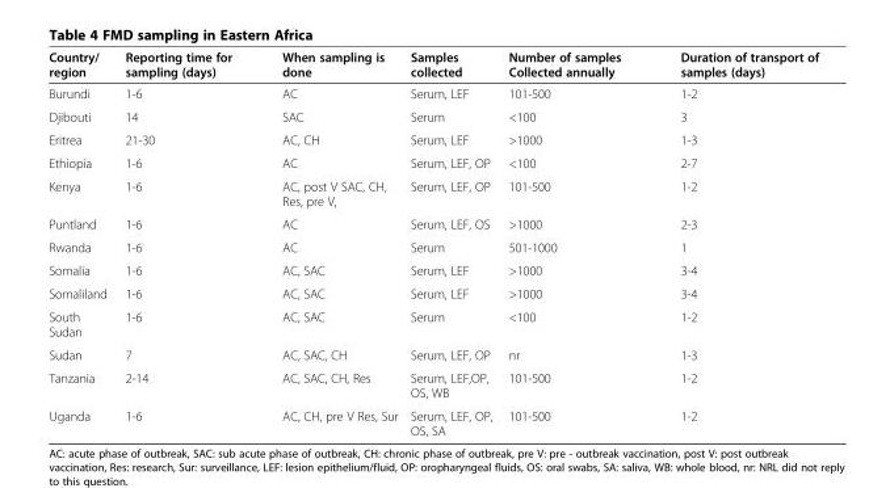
<table><thead><tr><td>Country/ region</td><td>Reporting time for sampling (days)</td><td>When sampling is done</td><td>Samples collected</td><td>Number of samples Collected annually</td><td>Duration of transport of samples (days)</td></tr></thead><tbody><tr><td>Burundi</td><td>1-6</td><td>AC</td><td>Serum, LEF</td><td>101-500</td><td>1-2</td></tr><tr><td>Djibouti</td><td>14</td><td>SAC</td><td>Serum</td><td>&lt;100</td><td>3</td></tr><tr><td>Eritrea</td><td>21-30</td><td>AC, CH</td><td>Serum, LEF</td><td>&gt;1000</td><td>1-3</td></tr><tr><td>Ethiopia</td><td>1-6</td><td>AC</td><td>Serum, LEF, OP</td><td>&lt;100</td><td>2-7</td></tr><tr><td>Kenya</td><td>1-6</td><td>AC, post V SAC, CH, Res, pre V,</td><td>Serum, LEF, OP</td><td>101-500</td><td>1-2</td></tr><tr><td>Puntland</td><td>1-6</td><td>AC</td><td>Serum, LEF, OS</td><td>&gt;1000</td><td>2-3</td></tr><tr><td>Rwanda</td><td>1-6</td><td>AC</td><td>Serum</td><td>501-1000</td><td>1</td></tr><tr><td>Somalia</td><td>1-6</td><td>AC, SAC</td><td>Serum, LEF</td><td>&gt;1000</td><td>3-4</td></tr><tr><td>Somaliland</td><td>1-6</td><td>AC, SAC</td><td>Serum, LEF</td><td>&gt;1000</td><td>3-4</td></tr><tr><td>South Sudan</td><td>1-6</td><td>AC, SAC</td><td>Serum</td><td>&lt;100</td><td>1-2</td></tr><tr><td>Sudan</td><td>7</td><td>AC, SAC, CH</td><td>Serum, LEF, OP</td><td>nr</td><td>1-3</td></tr><tr><td>Tanzania</td><td>2-14</td><td>AC, SAC, CH, Res</td><td>Serum, LEF,OP, OS, WB</td><td>101-500</td><td>1-2</td></tr><tr><td>Uganda</td><td>1-6</td><td>AC, CH, pre V Res, Sur</td><td>Serum, LEF, OP, OS, SA</td><td>101-500</td><td>1-2</td></tr></tbody></table>